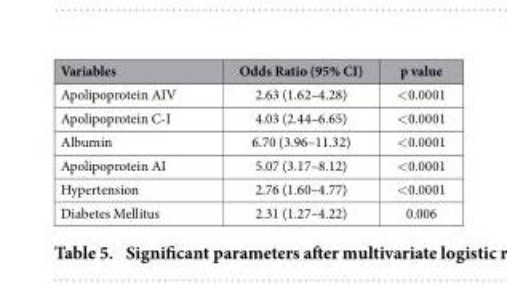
<table><thead><tr><td>Variables</td><td>Odds Ratio (95% CI)</td><td>p value</td></tr></thead><tbody><tr><td>Apolipoprotein AIV</td><td>2.63 (1.62–4.28)</td><td>&lt; 0.0001</td></tr><tr><td>Apolipoprotein C-I</td><td>4.03 (2.44–6.65)</td><td>&lt; 0.0001</td></tr><tr><td>Albumin</td><td>6.70 (3.96–11.32)</td><td>&lt; 0.0001</td></tr><tr><td>Apolipoprotein AI</td><td>5.07 (3.17–8.12)</td><td>&lt; 0.0001</td></tr><tr><td>Hypertension</td><td>2.76 (1.60–4.77)</td><td>&lt; 0.0001</td></tr><tr><td>Diabetes Mellitus</td><td>2.31 (1.27–4.22)</td><td>0.006</td></tr></tbody></table>